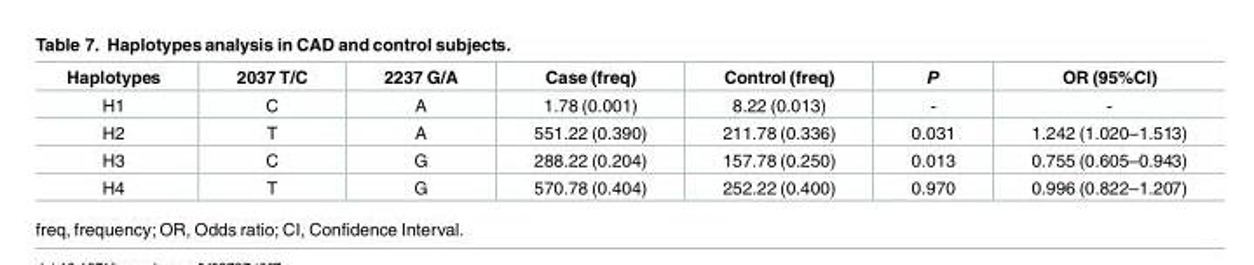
<table><thead><tr><td>Haplotypes</td><td>2037 T/C</td><td>2237 G/A</td><td>Case (freq)</td><td>Control (freq)</td><td>P</td><td>OR (95%CI)</td></tr></thead><tbody><tr><td>H1</td><td>C</td><td>A</td><td>1.78 (0.001)</td><td>8.22 (0.013)</td><td>-</td><td>-</td></tr><tr><td>H2</td><td>T</td><td>A</td><td>551.22 (0.390)</td><td>211.78 (0.336)</td><td>0.031</td><td>1.242 (1.020–1.513)</td></tr><tr><td>H3</td><td>C</td><td>G</td><td>288.22 (0.204)</td><td>157.78 (0.250)</td><td>0.013</td><td>0.755 (0.605–0.943)</td></tr><tr><td>H4</td><td>T</td><td>G</td><td>570.78 (0.404)</td><td>252.22 (0.400)</td><td>0.970</td><td>0.996 (0.822–1.207)</td></tr></tbody></table>